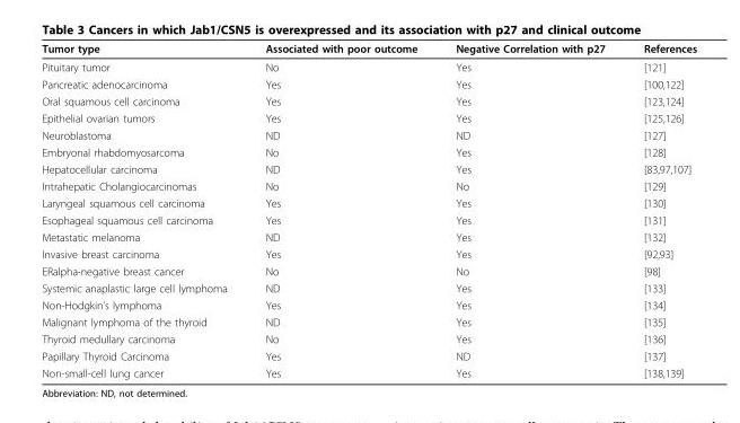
<table><thead><tr><td>Tumor type</td><td>Associated with poor outcome</td><td>Negative Correlation with p27</td><td>References</td></tr></thead><tbody><tr><td>Pituitary tumor</td><td>No</td><td>Yes</td><td>[121]</td></tr><tr><td>Pancreatic adenocarcinoma</td><td>Yes</td><td>Yes</td><td>[100,122]</td></tr><tr><td>Oral squamous cell carcinoma</td><td>Yes</td><td>Yes</td><td>[123,124]</td></tr><tr><td>Epithelial ovarian tumors</td><td>Yes</td><td>Yes</td><td>[125,126]</td></tr><tr><td>Neuroblastoma</td><td>ND</td><td>ND</td><td>[127]</td></tr><tr><td>Embryonal rhabdomyosarcoma</td><td>No</td><td>Yes</td><td>[128]</td></tr><tr><td>Hepatocellular carcinoma</td><td>ND</td><td>Yes</td><td>[83,97,107]</td></tr><tr><td>Intrahepatic Cholangiocarcinomas</td><td>No</td><td>No</td><td>[129]</td></tr><tr><td>Laryngeal squamous cell carcinoma</td><td>Yes</td><td>Yes</td><td>[130]</td></tr><tr><td>Esophageal squamous cell carcinoma</td><td>Yes</td><td>Yes</td><td>[131]</td></tr><tr><td>Metastatic melanoma</td><td>ND</td><td>Yes</td><td>[132]</td></tr><tr><td>Invasive breast carcinoma</td><td>Yes</td><td>Yes</td><td>[92,93]</td></tr><tr><td>ERalpha-negative breast cancer</td><td>No</td><td>No</td><td>[98]</td></tr><tr><td>Systemic anaplastic large cell lymphoma</td><td>ND</td><td>Yes</td><td>[133]</td></tr><tr><td>Non-Hodgkin’s lymphoma</td><td>Yes</td><td>Yes</td><td>[134]</td></tr><tr><td>Malignant lymphoma of the thyroid</td><td>ND</td><td>Yes</td><td>[135]</td></tr><tr><td>Thyroid medullary carcinoma</td><td>No</td><td>Yes</td><td>[136]</td></tr><tr><td>Papillary Thyroid Carcinoma</td><td>Yes</td><td>ND</td><td>[137]</td></tr><tr><td>Non-small-cell lung cancer</td><td>Yes</td><td>Yes</td><td>[138,139]</td></tr></tbody></table>